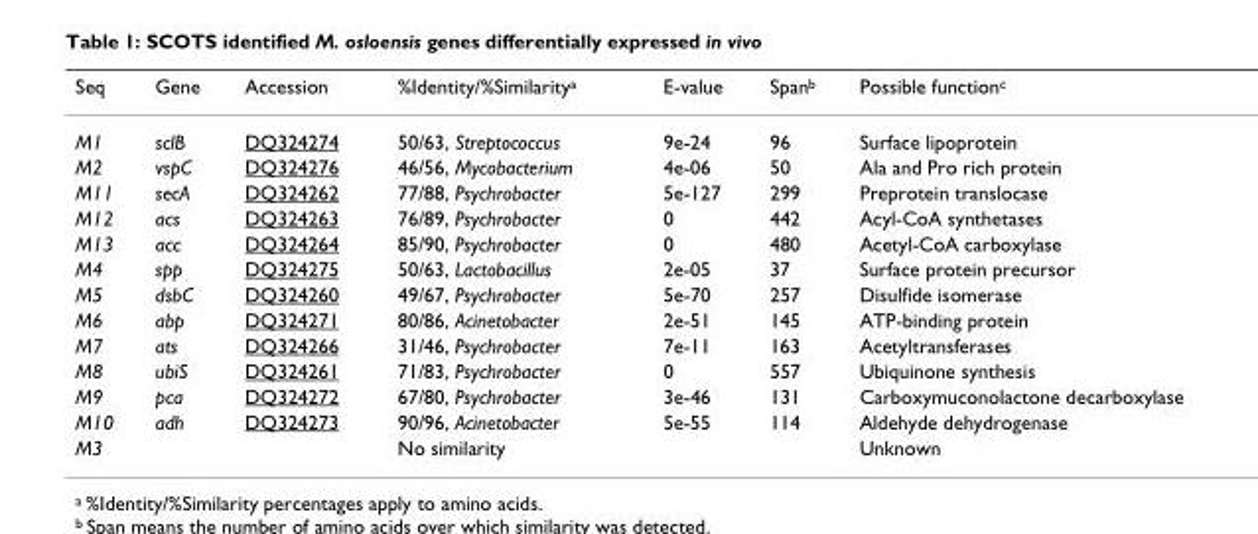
<table><thead><tr><td>Seq</td><td>Gene</td><td>Accession</td><td>%Identity/%Similarity<sup>a</sup></td><td>E-value</td><td>Span<sup>b</sup></td><td>Possible function<sup>c</sup></td></tr></thead><tbody><tr><td>M1</td><td>sclB</td><td>DQ324274</td><td>50/63, Streptococcus</td><td>9e-24</td><td>96</td><td>Surface lipoprotein</td></tr><tr><td>M2</td><td>vspC</td><td>DQ324276</td><td>46/56, Mycobacterium</td><td>4e-06</td><td>50</td><td>Ala and Pro rich protein</td></tr><tr><td>M11</td><td>secA</td><td>DQ324262</td><td>77/88, Psychrobacter</td><td>5e-127</td><td>299</td><td>Preprotein translocase</td></tr><tr><td>M12</td><td>acs</td><td>DQ324263</td><td>76/89, Psychrobacter</td><td>0</td><td>442</td><td>Acyl-CoA synthetases</td></tr><tr><td>M13</td><td>acc</td><td>DQ324264</td><td>85/90, Psychrobacter</td><td>0</td><td>480</td><td>Acetyl-CoA carboxylase</td></tr><tr><td>M4</td><td>spp</td><td>DQ324275</td><td>50/63, Lactobacillus</td><td>2e-05</td><td>37</td><td>Surface protein precursor</td></tr><tr><td>M5</td><td>dsbC</td><td>DQ324260</td><td>49/67, Psychrobacter</td><td>5e-70</td><td>257</td><td>Disulfide isomerase</td></tr><tr><td>M6</td><td>abp</td><td>DQ324271</td><td>80/86, Acinetobacter</td><td>2e-51</td><td>145</td><td>ATP-binding protein</td></tr><tr><td>M7</td><td>ats</td><td>DQ324266</td><td>31/46, Psychrobacter</td><td>7e-11</td><td>163</td><td>Acetyltransferases</td></tr><tr><td>M8</td><td>ubiS</td><td>DQ324261</td><td>71/83, Psychrobacter</td><td>0</td><td>557</td><td>Ubiquinone synthesis</td></tr><tr><td>M9</td><td>pca</td><td>DQ324272</td><td>67/80, Psychrobacter</td><td>3e-46</td><td>131</td><td>Carboxymuconolactone decarboxylase</td></tr><tr><td>M10</td><td>adh</td><td>DQ324273</td><td>90/96, Acinetobacter</td><td>5e-55</td><td>114</td><td>Aldehyde dehydrogenase</td></tr><tr><td>M3</td><td></td><td></td><td>No similarity</td><td></td><td></td><td>Unknown</td></tr></tbody></table>